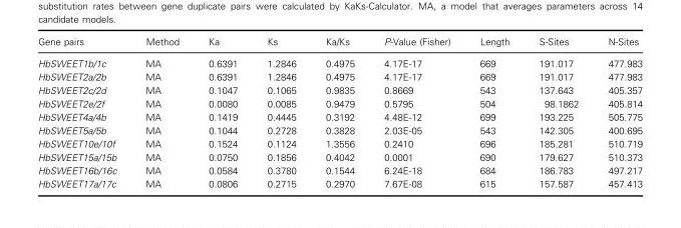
<table><thead><tr><td>Gene pairs</td><td>Method</td><td>Ka</td><td>Ks</td><td>Ka/Ks</td><td>P-Value (Fisher)</td><td>Length</td><td>S-Sites</td><td>N-Sites</td></tr></thead><tbody><tr><td>HbSWEET1b/1c</td><td>MA</td><td>0.6391</td><td>1.2846</td><td>0.4975</td><td>4.17E-17</td><td>669</td><td>191.017</td><td>477.983</td></tr><tr><td>HbSWEET2a/2b</td><td>MA</td><td>0.6391</td><td>1.2846</td><td>0.4975</td><td>4.17E-17</td><td>669</td><td>191.017</td><td>477.983</td></tr><tr><td>HbSWEET2c/2d</td><td>MA</td><td>0.1047</td><td>0.1065</td><td>0.9835</td><td>0.8669</td><td>543</td><td>137.643</td><td>405.357</td></tr><tr><td>HbSWEET2e/2f</td><td>MA</td><td>0.0080</td><td>0.0085</td><td>0.9479</td><td>0.5795</td><td>504</td><td>98.1862</td><td>405.814</td></tr><tr><td>HbSWEET4a/4b</td><td>MA</td><td>0.1419</td><td>0.4445</td><td>0.3192</td><td>4.48E-12</td><td>699</td><td>193.225</td><td>505.775</td></tr><tr><td>HbSWEET5a/5b</td><td>MA</td><td>0.1044</td><td>0.2728</td><td>0.3828</td><td>2.03E-05</td><td>543</td><td>142.305</td><td>400.695</td></tr><tr><td>HbSWEET10e/10f</td><td>MA</td><td>0.1524</td><td>0.1124</td><td>1.3556</td><td>0.2410</td><td>696</td><td>185.281</td><td>510.719</td></tr><tr><td>HbSWEET15a/15b</td><td>MA</td><td>0.0750</td><td>0.1856</td><td>0.4042</td><td>0.0001</td><td>690</td><td>179.627</td><td>510.373</td></tr><tr><td>HbSWEET16b/16c</td><td>MA</td><td>0.0584</td><td>0.3780</td><td>0.1544</td><td>6.24E-18</td><td>684</td><td>186.783</td><td>497.217</td></tr><tr><td>HbSWEET17a/17c</td><td>MA</td><td>0.0806</td><td>0.2715</td><td>0.2970</td><td>7.67E-08</td><td>615</td><td>157.587</td><td>457.413</td></tr></tbody></table>